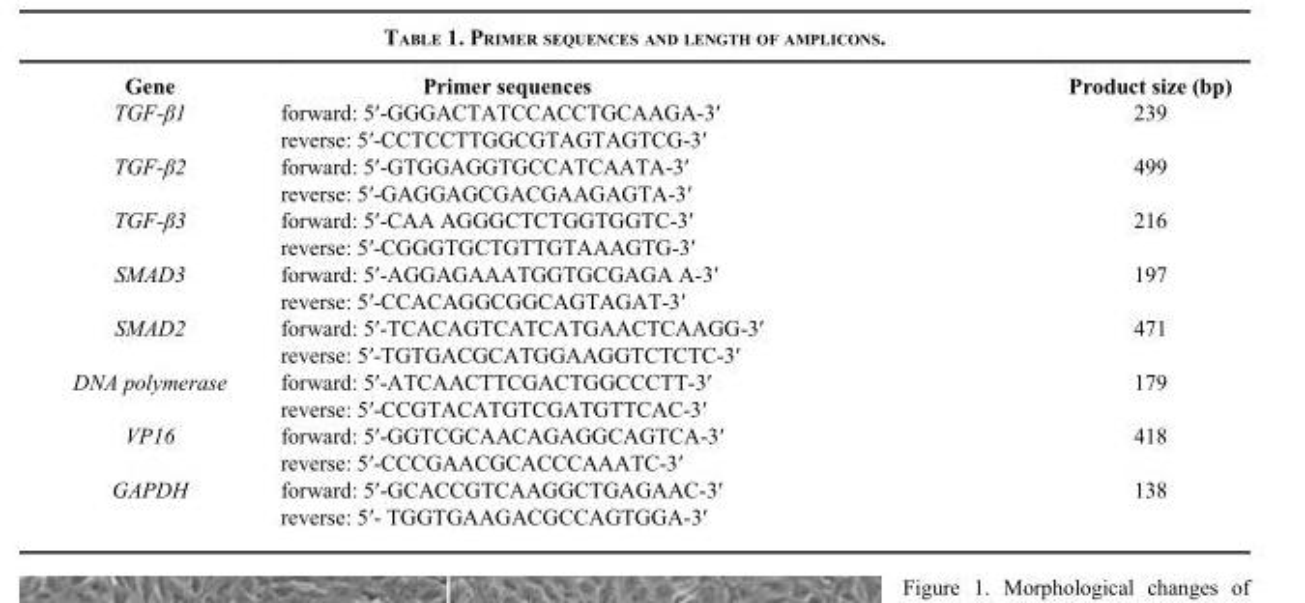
<table><thead><tr><td>Gene</td><td>Primer sequences</td><td>Product size (bp)</td></tr></thead><tbody><tr><td rowspan="2">TGF-β1</td><td>forward: 5′-GGGACTATCCACCTGCAAGA-3′</td><td>239</td></tr><tr><td>reverse: 5′-CCTCCTTGGCGTAGTAGTCG-3′</td><td></td></tr><tr><td rowspan="2">TGF-β2</td><td>forward: 5′-GTGGAGGTGCCATCAATA-3′</td><td>499</td></tr><tr><td>reverse: 5′-GAGGAGCGACGAAGAGTA-3′</td><td></td></tr><tr><td rowspan="2">TGF-β3</td><td>forward: 5′-CAA AGGGCTCTGGTGGTC-3′</td><td>216</td></tr><tr><td>reverse: 5′-CGGGTGCTGTTGTAAAGTG-3′</td><td></td></tr><tr><td rowspan="2">SMAD3</td><td>forward: 5′-AGGAGAAATGGTGCGAGA A-3′</td><td>197</td></tr><tr><td>reverse: 5′-CCACAGGCGGCAGTAGAT-3′</td><td></td></tr><tr><td rowspan="2">SMAD2</td><td>forward: 5′-TCACAGTCATCATGAACTCAAGG-3′</td><td>471</td></tr><tr><td>reverse: 5′-TGTGACGCATGGAAGGTCTCTC-3′</td><td></td></tr><tr><td rowspan="2">DNA polymerase</td><td>forward: 5′-ATCAACTTCGACTGGCCCTT-3′</td><td>179</td></tr><tr><td>reverse: 5′-CCGTACATGTCGATGTTCAC-3′</td><td></td></tr><tr><td rowspan="2">VP16</td><td>forward: 5′-GGTCGCAACAGAGGCAGTCA-3′</td><td>418</td></tr><tr><td>reverse: 5′-CCCGAACGCACCCAAATC-3′</td><td></td></tr><tr><td rowspan="2">GAPDH</td><td>forward: 5′-GCACCGTCAAGGCTGAGAAC-3′</td><td>138</td></tr><tr><td>reverse: 5′- TGGTGAAGACGCCAGTGGA-3′</td><td></td></tr></tbody></table>